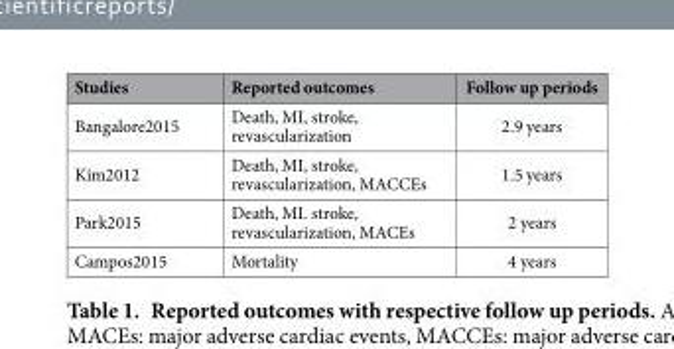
<table><thead><tr><td>Studies</td><td>Reported outcomes</td><td>Follow up periods</td></tr></thead><tbody><tr><td>Bangalore2015</td><td>Death, MI, stroke, revascularization</td><td>2.9 years</td></tr><tr><td>Kim2012</td><td>Death, MI, stroke, revascularization, MACCEs</td><td>1.5 years</td></tr><tr><td>Park2015</td><td>Death, MI. stroke, revascularization, MACEs</td><td>2 years</td></tr><tr><td>Campos2015</td><td>Mortality</td><td>4 years</td></tr></tbody></table>